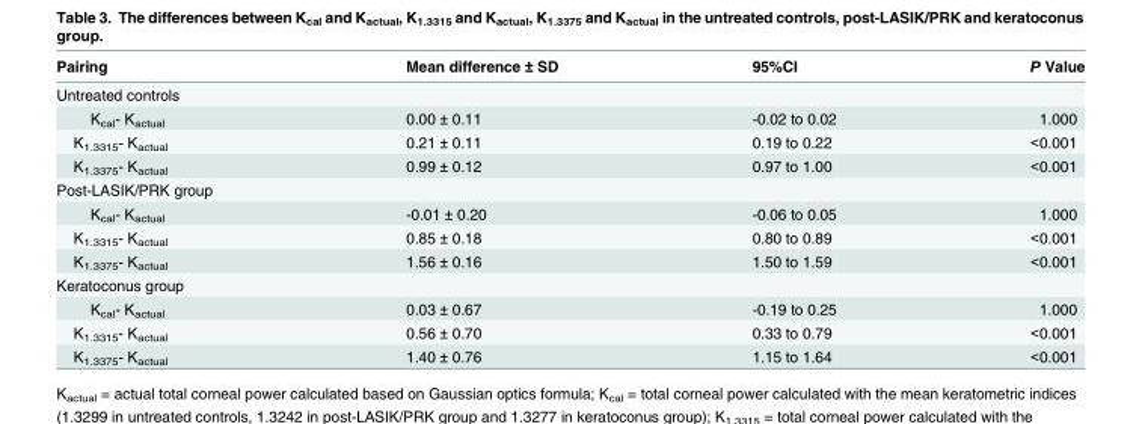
<table><thead><tr><td>Pairing</td><td>Mean difference ± SD</td><td>95%CI</td><td>P Value</td></tr></thead><tbody><tr><td colspan="4">Untreated controls</td></tr><tr><td>K<sub>cal</sub>- K<sub>actual</sub></td><td>0.00 ± 0.11</td><td>-0.02 to 0.02</td><td>1.000</td></tr><tr><td>K<sub>1.3315</sub>- K<sub>actual</sub></td><td>0.21 ± 0.11</td><td>0.19 to 0.22</td><td>&lt;0.001</td></tr><tr><td>K<sub>1.3375</sub>- K<sub>actual</sub></td><td>0.99 ± 0.12</td><td>0.97 to 1.00</td><td>&lt;0.001</td></tr><tr><td colspan="4">Post-LASIK/PRK group</td></tr><tr><td>K<sub>cal</sub>- K<sub>actual</sub></td><td>-0.01 ± 0.20</td><td>-0.06 to 0.05</td><td>1.000</td></tr><tr><td>K<sub>1.3315</sub>- K<sub>actual</sub></td><td>0.85 ± 0.18</td><td>0.80 to 0.89</td><td>&lt;0.001</td></tr><tr><td>K<sub>1.3375</sub>- K<sub>actual</sub></td><td>1.56 ± 0.16</td><td>1.50 to 1.59</td><td>&lt;0.001</td></tr><tr><td colspan="4">Keratoconus group</td></tr><tr><td>K<sub>cal</sub>- K<sub>actual</sub></td><td>0.03 ± 0.67</td><td>-0.19 to 0.25</td><td>1.000</td></tr><tr><td>K<sub>1.3315</sub>- K<sub>actual</sub></td><td>0.56 ± 0.70</td><td>0.33 to 0.79</td><td>&lt;0.001</td></tr><tr><td>K<sub>1.3375</sub>- K<sub>actual</sub></td><td>1.40 ± 0.76</td><td>1.15 to 1.64</td><td>&lt;0.001</td></tr></tbody></table>